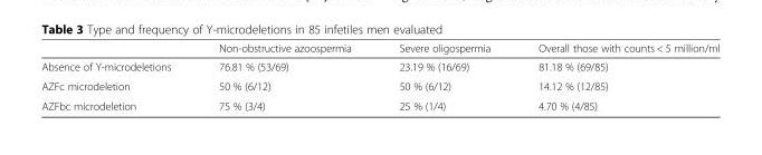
<table><thead><tr><td></td><td>Non-obstructive azoospermia</td><td>Severe oligospermia</td><td>Overall those with counts &lt; 5 million/ml</td></tr></thead><tbody><tr><td>Absence of Y-microdeletions</td><td>76.81 % (53/69)</td><td>23.19 % (16/69)</td><td>81.18 % (69/85)</td></tr><tr><td>AZFc microdeletion</td><td>50 % (6/12)</td><td>50 % (6/12)</td><td>14.12 % (12/85)</td></tr><tr><td>AZFbc microdeletion</td><td>75 % (3/4)</td><td>25 % (1/4)</td><td>4.70 % (4/85)</td></tr></tbody></table>